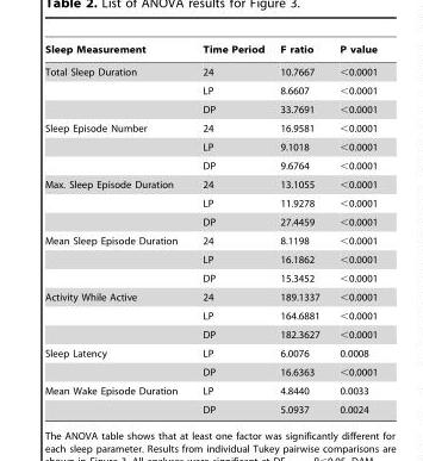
<table><thead><tr><td>Sleep Measurement</td><td>Time Period</td><td>F ratio</td><td>P value</td></tr></thead><tbody><tr><td rowspan="3">Total Sleep Duration</td><td>24</td><td>10.7667</td><td>&lt;0.0001</td></tr><tr><td>LP</td><td>8.6607</td><td>&lt;0.0001</td></tr><tr><td>DP</td><td>33.7691</td><td>&lt;0.0001</td></tr><tr><td rowspan="3">Sleep Episode Number</td><td>24</td><td>16.9581</td><td>&lt;0.0001</td></tr><tr><td>LP</td><td>9.1018</td><td>&lt;0.0001</td></tr><tr><td>DP</td><td>9.6764</td><td>&lt;0.0001</td></tr><tr><td rowspan="3">Max. Sleep Episode Duration</td><td>24</td><td>13.1055</td><td>&lt;0.0001</td></tr><tr><td>LP</td><td>11.9278</td><td>&lt;0.0001</td></tr><tr><td>DP</td><td>27.4459</td><td>&lt;0.0001</td></tr><tr><td rowspan="3">Mean Sleep Episode Duration</td><td>24</td><td>8.1198</td><td>&lt;0.0001</td></tr><tr><td>LP</td><td>16.1862</td><td>&lt;0.0001</td></tr><tr><td>DP</td><td>15.3452</td><td>&lt;0.0001</td></tr><tr><td rowspan="3">Activity While Active</td><td>24</td><td>189.1337</td><td>&lt;0.0001</td></tr><tr><td>LP</td><td>164.6881</td><td>&lt;0.0001</td></tr><tr><td>DP</td><td>182.3627</td><td>&lt;0.0001</td></tr><tr><td rowspan="2">Sleep Latency</td><td>LP</td><td>6.0076</td><td>0.0008</td></tr><tr><td>DP</td><td>16.6363</td><td>&lt;0.0001</td></tr><tr><td rowspan="2">Mean Wake Episode Duration</td><td>LP</td><td>4.8440</td><td>0.0033</td></tr><tr><td>DP</td><td>5.0937</td><td>0.0024</td></tr></tbody></table>